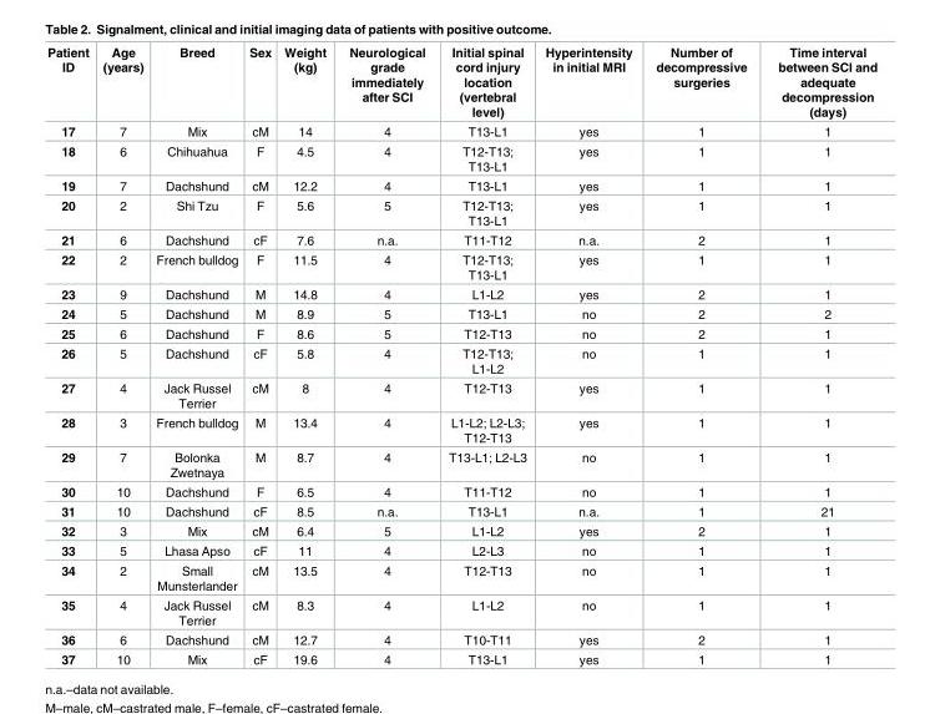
<table><thead><tr><td>Patient ID</td><td>Age (years)</td><td>Breed</td><td>Sex</td><td>Weight (kg)</td><td>Neurological grade immediately after SCI</td><td>Initial spinal cord injury location (vertebral level)</td><td>Hyperintensity in initial MRI</td><td>Number of decompressive surgeries</td><td>Time interval between SCI and adequate decompression (days)</td></tr></thead><tbody><tr><td>17</td><td>7</td><td>Mix</td><td>cM</td><td>14</td><td>4</td><td>T13-L1</td><td>yes</td><td>1</td><td>1</td></tr><tr><td>18</td><td>6</td><td>Chihuahua</td><td>F</td><td>4.5</td><td>4</td><td>T12-T13; T13-L1</td><td>yes</td><td>1</td><td>1</td></tr><tr><td>19</td><td>7</td><td>Dachshund</td><td>cM</td><td>12.2</td><td>4</td><td>T13-L1</td><td>yes</td><td>1</td><td>1</td></tr><tr><td>20</td><td>2</td><td>Shi Tzu</td><td>F</td><td>5.6</td><td>5</td><td>T12-T13; T13-L1</td><td>yes</td><td>1</td><td>1</td></tr><tr><td>21</td><td>6</td><td>Dachshund</td><td>cF</td><td>7.6</td><td>n.a.</td><td>T11-T12</td><td>n.a.</td><td>2</td><td>1</td></tr><tr><td>22</td><td>2</td><td>French bulldog</td><td>F</td><td>11.5</td><td>4</td><td>T12-T13; T13-L1</td><td>yes</td><td>1</td><td>1</td></tr><tr><td>23</td><td>9</td><td>Dachshund</td><td>M</td><td>14.8</td><td>4</td><td>L1-L2</td><td>yes</td><td>2</td><td>1</td></tr><tr><td>24</td><td>5</td><td>Dachshund</td><td>M</td><td>8.9</td><td>5</td><td>T13-L1</td><td>no</td><td>2</td><td>2</td></tr><tr><td>25</td><td>6</td><td>Dachshund</td><td>F</td><td>8.6</td><td>5</td><td>T12-T13</td><td>no</td><td>2</td><td>1</td></tr><tr><td>26</td><td>5</td><td>Dachshund</td><td>cF</td><td>5.8</td><td>4</td><td>T12-T13; L1-L2</td><td>no</td><td>1</td><td>1</td></tr><tr><td>27</td><td>4</td><td>Jack Russel Terrier</td><td>cM</td><td>8</td><td>4</td><td>T12-T13</td><td>yes</td><td>1</td><td>1</td></tr><tr><td>28</td><td>3</td><td>French bulldog</td><td>M</td><td>13.4</td><td>4</td><td>L1-L2; L2-L3; T12-T13</td><td>yes</td><td>1</td><td>1</td></tr><tr><td>29</td><td>7</td><td>Bolonka Zwetnaya</td><td>M</td><td>8.7</td><td>4</td><td>T13-L1; L2-L3</td><td>no</td><td>1</td><td>1</td></tr><tr><td>30</td><td>10</td><td>Dachshund</td><td>F</td><td>6.5</td><td>4</td><td>T11-T12</td><td>no</td><td>1</td><td>1</td></tr><tr><td>31</td><td>10</td><td>Dachshund</td><td>cF</td><td>8.5</td><td>n.a.</td><td>T13-L1</td><td>n.a.</td><td>1</td><td>21</td></tr><tr><td>32</td><td>3</td><td>Mix</td><td>cM</td><td>6.4</td><td>5</td><td>L1-L2</td><td>yes</td><td>2</td><td>1</td></tr><tr><td>33</td><td>5</td><td>Lhasa Apso</td><td>cF</td><td>11</td><td>4</td><td>L2-L3</td><td>no</td><td>1</td><td>1</td></tr><tr><td>34</td><td>2</td><td>Small Munsterlander</td><td>cM</td><td>13.5</td><td>4</td><td>T12-T13</td><td>no</td><td>1</td><td>1</td></tr><tr><td>35</td><td>4</td><td>Jack Russel Terrier</td><td>cM</td><td>8.3</td><td>4</td><td>L1-L2</td><td>no</td><td>1</td><td>1</td></tr><tr><td>36</td><td>6</td><td>Dachshund</td><td>cM</td><td>12.7</td><td>4</td><td>T10-T11</td><td>yes</td><td>2</td><td>1</td></tr><tr><td>37</td><td>10</td><td>Mix</td><td>cF</td><td>19.6</td><td>4</td><td>T13-L1</td><td>yes</td><td>1</td><td>1</td></tr></tbody></table>